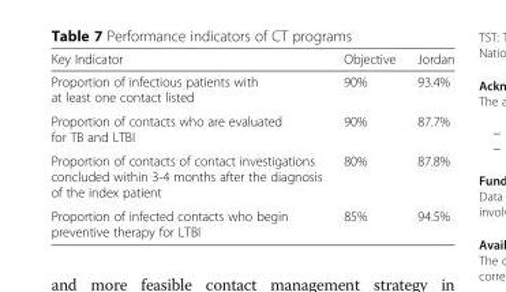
<table><thead><tr><td>Key Indicator</td><td>Objective</td><td>Jordan</td></tr></thead><tbody><tr><td>Proportion of infectious patients with at least one contact listed</td><td>90%</td><td>93.4%</td></tr><tr><td>Proportion of contacts who are evaluated for TB and LTBI</td><td>90%</td><td>87.7%</td></tr><tr><td>Proportion of contacts of contact investigations concluded within 3-4 months after the diagnosis of the index patient</td><td>80%</td><td>87.8%</td></tr><tr><td>Proportion of infected contacts who begin preventive therapy for LTBI</td><td>85%</td><td>94.5%</td></tr></tbody></table>